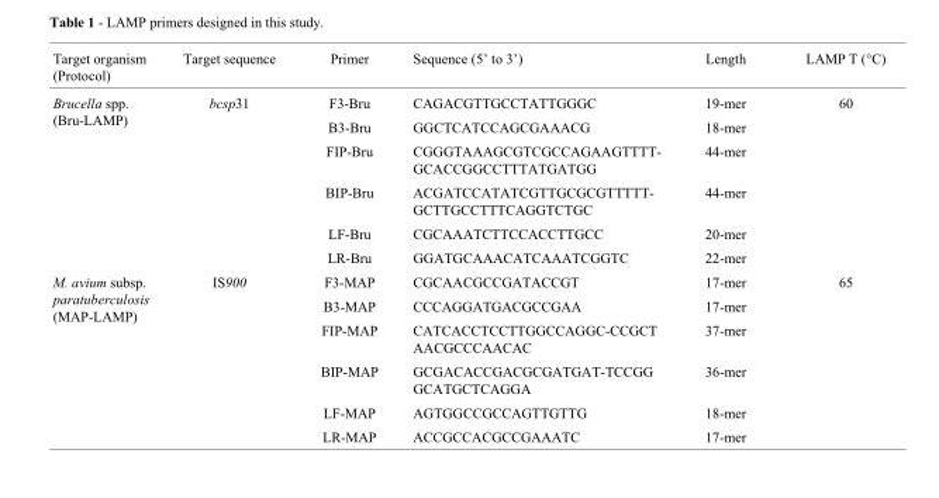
<table><thead><tr><td>Target organism (Protocol)</td><td>Target sequence</td><td>Primer</td><td>Sequence (5’ to 3’)</td><td>Length</td><td>LAMP T (°C)</td></tr></thead><tbody><tr><td rowspan="6">Brucella spp. (Bru-LAMP)</td><td rowspan="6">bcsp31</td><td>F3-Bru</td><td>CAGACGTTGCCTATTGGGC</td><td>19-mer</td><td>60</td></tr><tr><td>B3-Bru</td><td>GGCTCATCCAGCGAAACG</td><td>18-mer</td><td></td></tr><tr><td>FIP-Bru</td><td>CGGGTAAAGCGTCGCCAGAAGTTTT- GCACCGGCCTTTATGATGG</td><td>44-mer</td><td></td></tr><tr><td>BIP-Bru</td><td>ACGATCCATATCGTTGCGCGTTTTT- GCTTGCCTTTCAGGTCTGC</td><td>44-mer</td><td></td></tr><tr><td>LF-Bru</td><td>CGCAAATCTTCCACCTTGCC</td><td>20-mer</td><td></td></tr><tr><td>LR-Bru</td><td>GGATGCAAACATCAAATCGGTC</td><td>22-mer</td><td></td></tr><tr><td rowspan="6">M. avium subsp. paratuberculosis (MAP-LAMP)</td><td rowspan="6">IS900</td><td>F3-MAP</td><td>CGCAACGCCGATACCGT</td><td>17-mer</td><td>65</td></tr><tr><td>B3-MAP</td><td>CCCAGGATGACGCCGAA</td><td>17-mer</td><td></td></tr><tr><td>FIP-MAP</td><td>CATCACCTCCTTGGCCAGGC-CCGCT AACGCCCAACAC</td><td>37-mer</td><td></td></tr><tr><td>BIP-MAP</td><td>GCGACACCGACGCGATGAT-TCCGG GCATGCTCAGGA</td><td>36-mer</td><td></td></tr><tr><td>LF-MAP</td><td>AGTGGCCGCCAGTTGTTG</td><td>18-mer</td><td></td></tr><tr><td>LR-MAP</td><td>ACCGCCACGCCGAAATC</td><td>17-mer</td><td></td></tr></tbody></table>